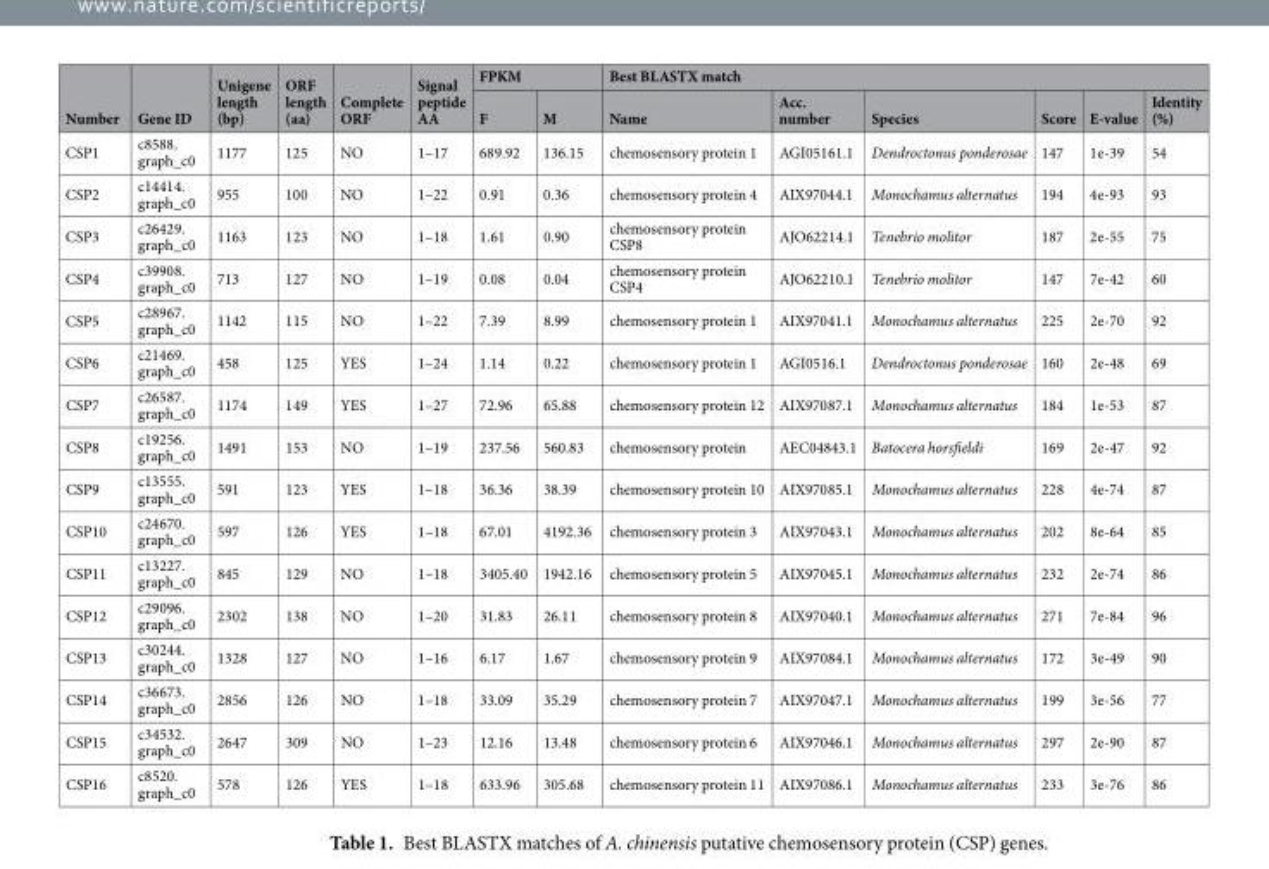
<table><thead><tr><td rowspan="2">Number</td><td rowspan="2">Gene ID</td><td rowspan="2">Unigene length (bp)</td><td rowspan="2">ORF length (aa)</td><td rowspan="2">Complete ORF</td><td rowspan="2">Signal peptide AA</td><td colspan="2">FPKM</td><td colspan="6">Best BLASTX match</td></tr><tr><td>F</td><td>M</td><td>Name</td><td>Acc. number</td><td>Species</td><td>Score</td><td>E-value</td><td>Identity (%)</td></tr></thead><tbody><tr><td>CSP1</td><td>c8588. graph_c0</td><td>1177</td><td>125</td><td>NO</td><td>1–17</td><td>689.92</td><td>136.15</td><td>chemosensory protein 1</td><td>AGI05161.1</td><td>Dendroctonus ponderosae</td><td>147</td><td>1e-39</td><td>54</td></tr><tr><td>CSP2</td><td>c14414. graph_c0</td><td>955</td><td>100</td><td>NO</td><td>1–22</td><td>0.91</td><td>0.36</td><td>chemosensory protein 4</td><td>AIX97044.1</td><td>Monochamus alternatus</td><td>194</td><td>4e-93</td><td>93</td></tr><tr><td>CSP3</td><td>c26429. graph_c0</td><td>1163</td><td>123</td><td>NO</td><td>1–18</td><td>1.61</td><td>0.90</td><td>chemosensory protein CSP8</td><td>AJO62214.1</td><td>Tenebrio molitor</td><td>187</td><td>2e-55</td><td>75</td></tr><tr><td>CSP4</td><td>c39908. graph_c0</td><td>713</td><td>127</td><td>NO</td><td>1–19</td><td>0.08</td><td>0.04</td><td>chemosensory protein CSP4</td><td>AJO62210.1</td><td>Tenebrio molitor</td><td>147</td><td>7e-42</td><td>60</td></tr><tr><td>CSP5</td><td>c28967. graph_c0</td><td>1142</td><td>115</td><td>NO</td><td>1–22</td><td>7.39</td><td>8.99</td><td>chemosensory protein 1</td><td>AIX97041.1</td><td>Monochamus alternatus</td><td>225</td><td>2e-70</td><td>92</td></tr><tr><td>CSP6</td><td>c21469. graph_c0</td><td>458</td><td>125</td><td>YES</td><td>1–24</td><td>1.14</td><td>0.22</td><td>chemosensory protein 1</td><td>AGI0516.1</td><td>Dendroctonus ponderosae</td><td>160</td><td>2e-48</td><td>69</td></tr><tr><td>CSP7</td><td>c26587. graph_c0</td><td>1174</td><td>149</td><td>YES</td><td>1–27</td><td>72.96</td><td>65.88</td><td>chemosensory protein 12</td><td>AIX97087.1</td><td>Monochamus alternatus</td><td>184</td><td>1e-53</td><td>87</td></tr><tr><td>CSP8</td><td>c19256. graph_c0</td><td>1491</td><td>153</td><td>NO</td><td>1–19</td><td>237.56</td><td>560.83</td><td>chemosensory protein</td><td>AEC04843.1</td><td>Batocera horsfieldi</td><td>169</td><td>2e-47</td><td>92</td></tr><tr><td>CSP9</td><td>c13555. graph_c0</td><td>591</td><td>123</td><td>YES</td><td>1–18</td><td>36.36</td><td>38.39</td><td>chemosensory protein 10</td><td>AIX97085.1</td><td>Monochamus alternatus</td><td>228</td><td>4e-74</td><td>87</td></tr><tr><td>CSP10</td><td>c24670. graph_c0</td><td>597</td><td>126</td><td>YES</td><td>1–18</td><td>67.01</td><td>4192.36</td><td>chemosensory protein 3</td><td>AIX97043.1</td><td>Monochamus alternatus</td><td>202</td><td>8e-64</td><td>85</td></tr><tr><td>CSP11</td><td>c13227. graph_c0</td><td>845</td><td>129</td><td>NO</td><td>1–18</td><td>3405.40</td><td>1942.16</td><td>chemosensory protein 5</td><td>AIX97045.1</td><td>Monochamus alternatus</td><td>232</td><td>2e-74</td><td>86</td></tr><tr><td>CSP12</td><td>c29096. graph_c0</td><td>2302</td><td>138</td><td>NO</td><td>1–20</td><td>31.83</td><td>26.11</td><td>chemosensory protein 8</td><td>AIX97040.1</td><td>Monochamus alternatus</td><td>271</td><td>7e-84</td><td>96</td></tr><tr><td>CSP13</td><td>c30244. graph_c0</td><td>1328</td><td>127</td><td>NO</td><td>1–16</td><td>6.17</td><td>1.67</td><td>chemosensory protein 9</td><td>AIX97084.1</td><td>Monochamus alternatus</td><td>172</td><td>3e-49</td><td>90</td></tr><tr><td>CSP14</td><td>c36673. graph_c0</td><td>2856</td><td>126</td><td>NO</td><td>1–18</td><td>33.09</td><td>35.29</td><td>chemosensory protein 7</td><td>AIX97047.1</td><td>Monochamus alternatus</td><td>199</td><td>3e-56</td><td>77</td></tr><tr><td>CSP15</td><td>c34532. graph_c0</td><td>2647</td><td>309</td><td>NO</td><td>1–23</td><td>12.16</td><td>13.48</td><td>chemosensory protein 6</td><td>AIX97046.1</td><td>Monochamus alternatus</td><td>297</td><td>2e-90</td><td>87</td></tr><tr><td>CSP16</td><td>c8520. graph_c0</td><td>578</td><td>126</td><td>YES</td><td>1–18</td><td>633.96</td><td>305.68</td><td>chemosensory protein 11</td><td>AIX97086.1</td><td>Monochamus alternatus</td><td>233</td><td>3e-76</td><td>86</td></tr></tbody></table>